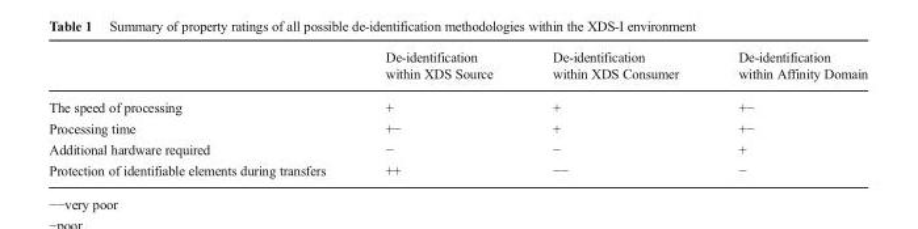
<table><thead><tr><td></td><td>De-identification within XDS Source</td><td>De-identification within XDS Consumer</td><td>De-identification within Affinity Domain</td></tr></thead><tbody><tr><td>The speed of processing</td><td>+</td><td>+</td><td>+−</td></tr><tr><td>Processing time</td><td>+−</td><td>+</td><td>+−</td></tr><tr><td>Additional hardware required</td><td>−</td><td>−</td><td>+</td></tr><tr><td>Protection of identifiable elements during transfers</td><td>++</td><td>−−</td><td>−</td></tr></tbody></table>